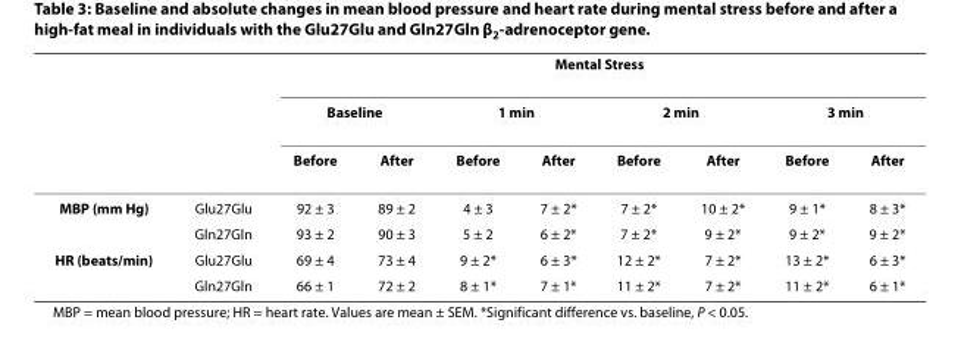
<table><thead><tr><td rowspan="3"></td><td rowspan="3"></td><td colspan="8">Mental Stress</td></tr><tr><td colspan="2">Baseline</td><td colspan="2">1 min</td><td colspan="2">2 min</td><td colspan="2">3 min</td></tr><tr><td>Before</td><td>After</td><td>Before</td><td>After</td><td>Before</td><td>After</td><td>Before</td><td>After</td></tr></thead><tbody><tr><td rowspan="2">MBP (mm Hg)</td><td>Glu27Glu</td><td>92 ± 3</td><td>89 ± 2</td><td>4 ± 3</td><td>7 ± 2*</td><td>7 ± 2*</td><td>10 ± 2*</td><td>9 ± 1*</td><td>8 ± 3*</td></tr><tr><td>Gln27Gln</td><td>93 ± 2</td><td>90 ± 3</td><td>5 ± 2</td><td>6 ± 2*</td><td>7 ± 2*</td><td>9 ± 2*</td><td>9 ± 2*</td><td>9 ± 2*</td></tr><tr><td rowspan="2">HR (beats/min)</td><td>Glu27Glu</td><td>69 ± 4</td><td>73 ± 4</td><td>9 ± 2*</td><td>6 ± 3*</td><td>12 ± 2*</td><td>7 ± 2*</td><td>13 ± 2*</td><td>6 ± 3*</td></tr><tr><td>Gln27Gln</td><td>66 ± 1</td><td>72 ± 2</td><td>8 ± 1*</td><td>7 ± 1*</td><td>11 ± 2*</td><td>7 ± 2*</td><td>11 ± 2*</td><td>6 ± 1*</td></tr></tbody></table>